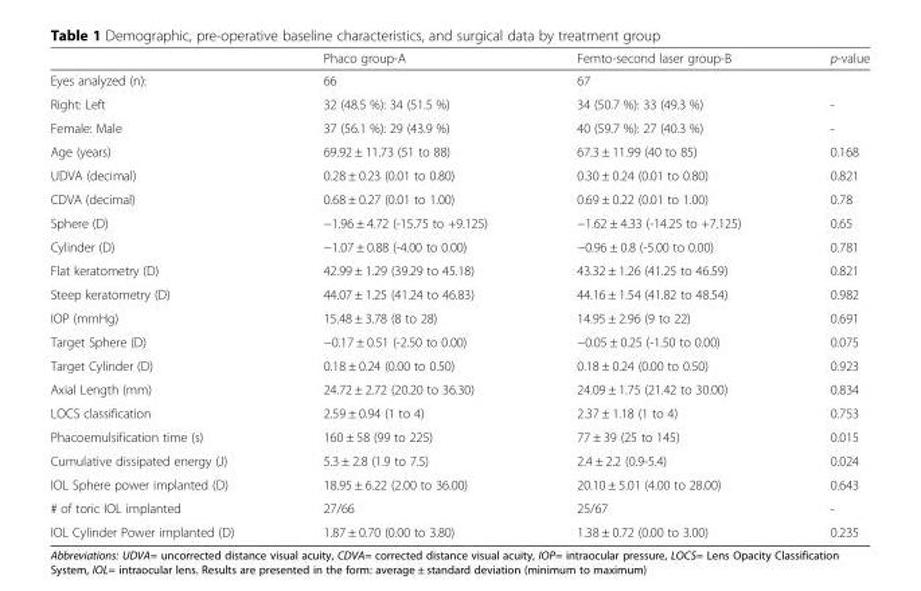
<table><thead><tr><td></td><td>Phaco group-A</td><td>Femto-second laser group-B</td><td>p-value</td></tr></thead><tbody><tr><td>Eyes analyzed (n):</td><td>66</td><td>67</td><td></td></tr><tr><td>Right: Left</td><td>32 (48.5 %): 34 (51.5 %)</td><td>34 (50.7 %): 33 (49.3 %)</td><td>-</td></tr><tr><td>Female: Male</td><td>37 (56.1 %): 29 (43.9 %)</td><td>40 (59.7 %): 27 (40.3 %)</td><td>-</td></tr><tr><td>Age (years)</td><td>69.92 ± 11.73 (51 to 88)</td><td>67.3 ± 11.99 (40 to 85)</td><td>0.168</td></tr><tr><td>UDVA (decimal)</td><td>0.28 ± 0.23 (0.01 to 0.80)</td><td>0.30 ± 0.24 (0.01 to 0.80)</td><td>0.821</td></tr><tr><td>CDVA (decimal)</td><td>0.68 ± 0.27 (0.01 to 1.00)</td><td>0.69 ± 0.22 (0.01 to 1.00)</td><td>0.78</td></tr><tr><td>Sphere (D)</td><td>−1.96 ± 4.72 (-15.75 to +9.125)</td><td>−1.62 ± 4.33 (-14.25 to +7.125)</td><td>0.65</td></tr><tr><td>Cylinder (D)</td><td>−1.07 ± 0.88 (-4.00 to 0.00)</td><td>−0.96 ± 0.8 (-5.00 to 0.00)</td><td>0.781</td></tr><tr><td>Flat keratometry (D)</td><td>42.99 ± 1.29 (39.29 to 45.18)</td><td>43.32 ± 1.26 (41.25 to 46.59)</td><td>0.821</td></tr><tr><td>Steep keratometry (D)</td><td>44.07 ± 1.25 (41.24 to 46.83)</td><td>44.16 ± 1.54 (41.82 to 48.54)</td><td>0.982</td></tr><tr><td>IOP (mmHg)</td><td>15.48 ± 3.78 (8 to 28)</td><td>14.95 ± 2.96 (9 to 22)</td><td>0.691</td></tr><tr><td>Target Sphere (D)</td><td>−0.17 ± 0.51 (-2.50 to 0.00)</td><td>−0.05 ± 0.25 (-1.50 to 0.00)</td><td>0.075</td></tr><tr><td>Target Cylinder (D)</td><td>0.18 ± 0.24 (0.00 to 0.50)</td><td>0.18 ± 0.24 (0.00 to 0.50)</td><td>0.923</td></tr><tr><td>Axial Length (mm)</td><td>24.72 ± 2.72 (20.20 to 36.30)</td><td>24.09 ± 1.75 (21.42 to 30.00)</td><td>0.834</td></tr><tr><td>LOCS classification</td><td>2.59 ± 0.94 (1 to 4)</td><td>2.37 ± 1.18 (1 to 4)</td><td>0.753</td></tr><tr><td>Phacoemulsification time (s)</td><td>160 ± 58 (99 to 225)</td><td>77 ± 39 (25 to 145)</td><td>0.015</td></tr><tr><td>Cumulative dissipated energy (J)</td><td>5.3 ± 2.8 (1.9 to 7.5)</td><td>2.4 ± 2.2 (0.9-5.4)</td><td>0.024</td></tr><tr><td>IOL Sphere power implanted (D)</td><td>18.95 ± 6.22 (2.00 to 36.00)</td><td>20.10 ± 5.01 (4.00 to 28.00)</td><td>0.643</td></tr><tr><td># of toric IOL implanted</td><td>27/66</td><td>25/67</td><td>-</td></tr><tr><td>IOL Cylinder Power implanted (D)</td><td>1.87 ± 0.70 (0.00 to 3.80)</td><td>1.38 ± 0.72 (0.00 to 3.00)</td><td>0.235</td></tr></tbody></table>